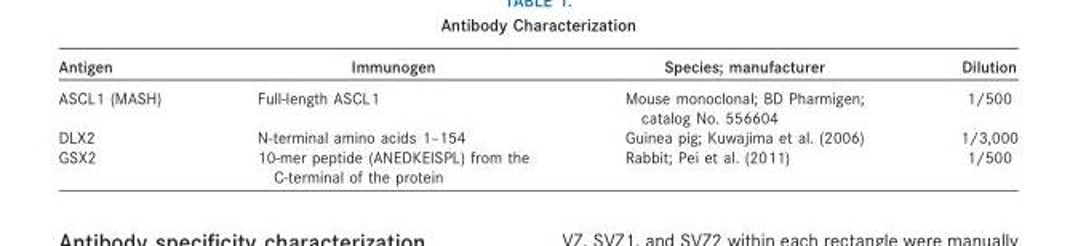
<table><thead><tr><td>Antigen</td><td>Immunogen</td><td>Species; manufacturer</td><td>Dilution</td></tr></thead><tbody><tr><td>ASCL1 (MASH)</td><td>Full-length ASCL1</td><td>Mouse monoclonal; BD Pharmigen; catalog No. 556604</td><td>1/500</td></tr><tr><td>DLX2</td><td>N-terminal amino acids 1–154</td><td>Guinea pig; Kuwajima et al. (2006)</td><td>1/3,000</td></tr><tr><td>GSX2</td><td>10-mer peptide (ANEDKEISPL) from the C-terminal of the protein</td><td>Rabbit; Pei et al. (2011)</td><td>1/500</td></tr></tbody></table>